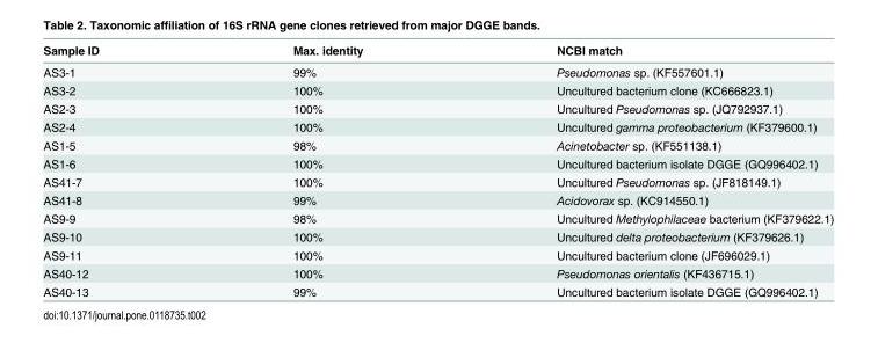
<table><thead><tr><td>Sample ID</td><td>Max. identity</td><td>NCBI match</td></tr></thead><tbody><tr><td>AS3-1</td><td>99%</td><td>Pseudomonas sp. (KF557601.1)</td></tr><tr><td>AS3-2</td><td>100%</td><td>Uncultured bacterium clone (KC666823.1)</td></tr><tr><td>AS2-3</td><td>100%</td><td>Uncultured Pseudomonas sp. (JQ792937.1)</td></tr><tr><td>AS2-4</td><td>100%</td><td>Uncultured gamma proteobacterium (KF379600.1)</td></tr><tr><td>AS1-5</td><td>98%</td><td>Acinetobacter sp. (KF551138.1)</td></tr><tr><td>AS1-6</td><td>100%</td><td>Uncultured bacterium isolate DGGE (GQ996402.1)</td></tr><tr><td>AS41-7</td><td>100%</td><td>Uncultured Pseudomonas sp. (JF818149.1)</td></tr><tr><td>AS41-8</td><td>99%</td><td>Acidovorax sp. (KC914550.1)</td></tr><tr><td>AS9-9</td><td>98%</td><td>Uncultured Methylophilaceae bacterium (KF379622.1)</td></tr><tr><td>AS9-10</td><td>100%</td><td>Uncultured delta proteobacterium (KF379626.1)</td></tr><tr><td>AS9-11</td><td>100%</td><td>Uncultured bacterium clone (JF696029.1)</td></tr><tr><td>AS40-12</td><td>100%</td><td>Pseudomonas orientalis (KF436715.1)</td></tr><tr><td>AS40-13</td><td>99%</td><td>Uncultured bacterium isolate DGGE (GQ996402.1)</td></tr></tbody></table>